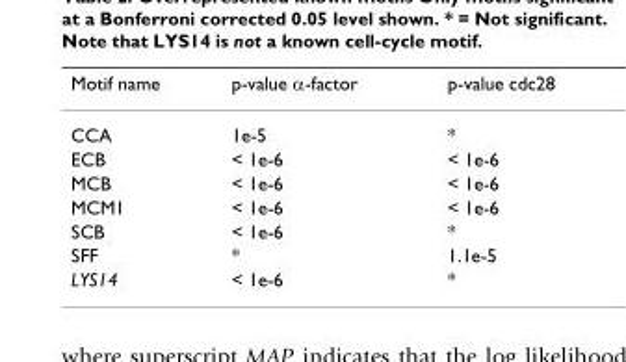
<table><thead><tr><td>Motif name</td><td>p-value α-factor</td><td>p-value cdc28</td></tr></thead><tbody><tr><td>CCA</td><td>1e-5</td><td>*</td></tr><tr><td>ECB</td><td>&lt; 1e-6</td><td>&lt; 1e-6</td></tr><tr><td>MCB</td><td>&lt; 1e-6</td><td>&lt; 1e-6</td></tr><tr><td>MCM1</td><td>&lt; 1e-6</td><td>&lt; 1e-6</td></tr><tr><td>SCB</td><td>&lt; 1e-6</td><td>*</td></tr><tr><td>SFF</td><td>*</td><td>1.1e-5</td></tr><tr><td>LYS14</td><td>&lt; 1e-6</td><td>*</td></tr></tbody></table>